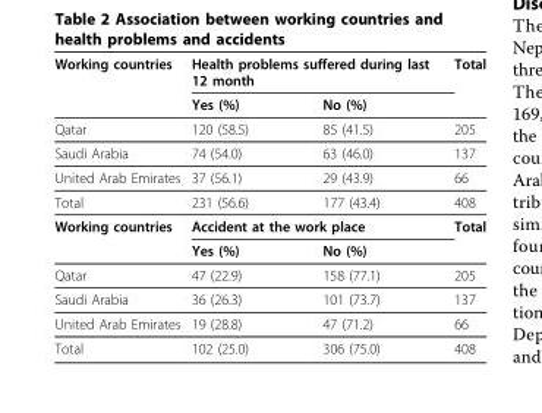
<table><thead><tr><td rowspan="2">Working countries</td><td colspan="2">Health problems suffered during last 12 month</td><td rowspan="2">Total</td></tr><tr><td>Yes (%)</td><td>No (%)</td></tr></thead><tbody><tr><td>Qatar</td><td>120 (58.5)</td><td>85 (41.5)</td><td>205</td></tr><tr><td>Saudi Arabia</td><td>74 (54.0)</td><td>63 (46.0)</td><td>137</td></tr><tr><td>United Arab Emirates</td><td>37 (56.1)</td><td>29 (43.9)</td><td>66</td></tr><tr><td>Total</td><td>231 (56.6)</td><td>177 (43.4)</td><td>408</td></tr><tr><td rowspan="2">Working countries</td><td colspan="2">Accident at the work place</td><td>Total</td></tr><tr><td>Yes (%)</td><td>No (%)</td><td></td></tr><tr><td>Qatar</td><td>47 (22.9)</td><td>158 (77.1)</td><td>205</td></tr><tr><td>Saudi Arabia</td><td>36 (26.3)</td><td>101 (73.7)</td><td>137</td></tr><tr><td>United Arab Emirates</td><td>19 (28.8)</td><td>47 (71.2)</td><td>66</td></tr><tr><td>Total</td><td>102 (25.0)</td><td>306 (75.0)</td><td>408</td></tr></tbody></table>